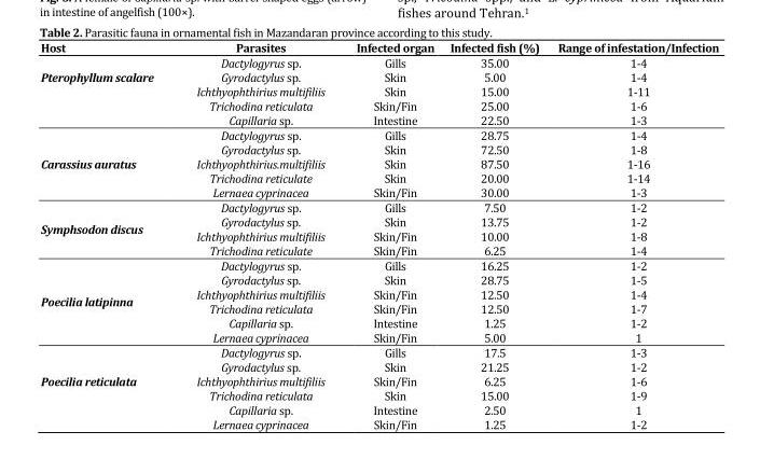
<table><thead><tr><td>Host</td><td>Parasites</td><td>Infected organ</td><td>Infected fish (%)</td><td>Range of infestation/Infection</td></tr></thead><tbody><tr><td>Pterophyllum scalare</td><td>Dactylogyrus sp. Gyrodactylus sp. Ichthyophthirius multifiliis Trichodina reticulata Capillaria sp.</td><td>Gills Skin Skin Skin/Fin Intestine</td><td>35.00 5.00 15.00 25.00 22.50</td><td>1-4 1-4 1-11 1-6 1-3</td></tr><tr><td>Carassius auratus</td><td>Dactylogyrus sp. Gyrodactylus sp. Ichthyophthirius.multifiliis Trichodina reticulate Lernaea cyprinacea</td><td>Gills Skin Skin Skin Skin/Fin</td><td>28.75 72.50 87.50 20.00 30.00</td><td>1-4 1-8 1-16 1-14 1-3</td></tr><tr><td>Symphsodon discus</td><td>Dactylogyrus sp. Gyrodactylus sp. Ichthyophthirius multifiliis Trichodina reticulate</td><td>Gills Skin Skin/Fin Skin/Fin</td><td>7.50 13.75 10.00 6.25</td><td>1-2 1-2 1-8 1-4</td></tr><tr><td>Poecilia latipinna</td><td>Dactylogyrus sp. Gyrodactylus sp. Ichthyophthirius multifiliis Trichodina reticulata Capillaria sp. Lernaea cyprinacea</td><td>Gills Skin Skin/Fin Skin/Fin Intestine Skin/Fin</td><td>16.25 28.75 12.50 12.50 1.25 5.00</td><td>1-2 1-5 1-4 1-7 1-2 1</td></tr><tr><td>Poecilia reticulata</td><td>Dactylogyrus sp. Gyrodactylus sp. Ichthyophthirius multifiliis Trichodina reticulata Capillaria sp. Lernaea cyprinacea</td><td>Gills Skin Skin/Fin Skin Intestine Skin/Fin</td><td>17.5 21.25 6.25 15.00 2.50 1.25</td><td>1-3 1-2 1-6 1-9 1 1-2</td></tr></tbody></table>